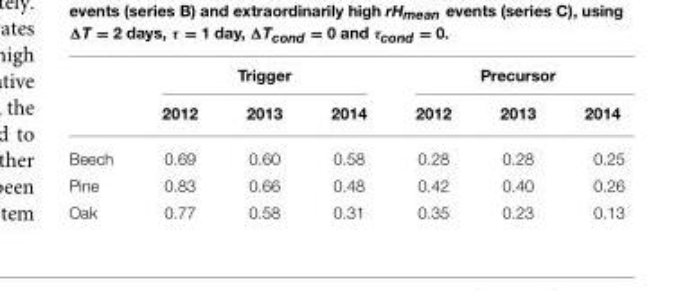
<table><thead><tr><td rowspan="2"></td><td colspan="3">Trigger</td><td colspan="3">Precursor</td></tr><tr><td>2012</td><td>2013</td><td>2014</td><td>2012</td><td>2013</td><td>2014</td></tr></thead><tbody><tr><td>Beech</td><td>0.69</td><td>0.60</td><td>0.58</td><td>0.28</td><td>0.28</td><td>0.25</td></tr><tr><td>Pine</td><td>0.83</td><td>0.66</td><td>0.48</td><td>0.42</td><td>0.40</td><td>0.26</td></tr><tr><td>Oak</td><td>0.77</td><td>0.58</td><td>0.31</td><td>0.35</td><td>0.23</td><td>0.13</td></tr></tbody></table>